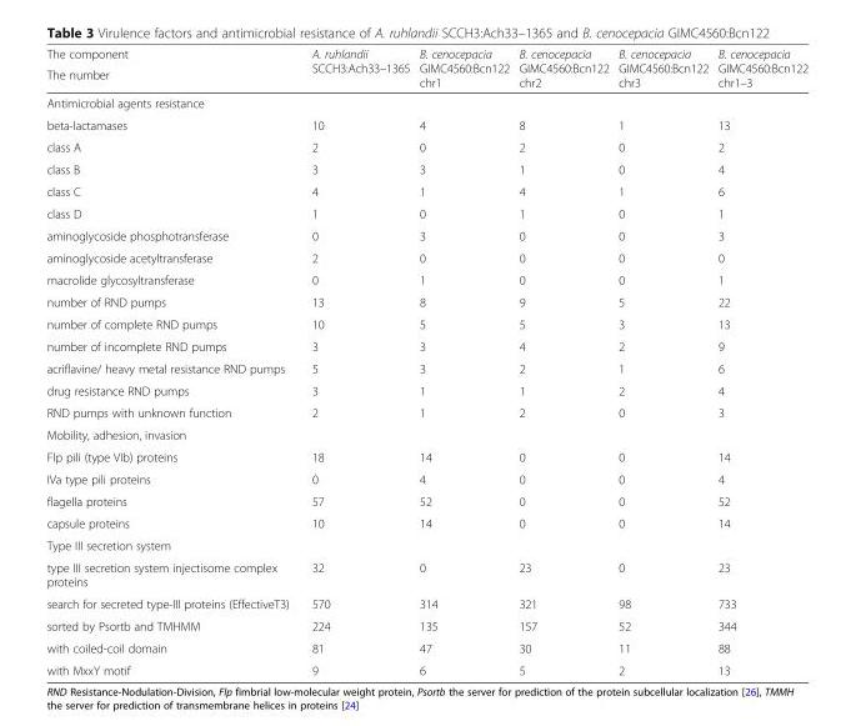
<table><thead><tr><td rowspan="2">The component The number</td><td rowspan="2">A. ruhlandii SCCH3:Ach33–1365</td><td rowspan="2">B. cenocepacia GIMC4560:Bcn122 chr1</td><td rowspan="2">B. cenocepacia GIMC4560:Bcn122 chr2</td><td rowspan="2">B. cenocepacia GIMC4560:Bcn122 chr3</td><td rowspan="2">B. cenocepacia GIMC4560:Bcn122 chr1–3</td></tr><tr></tr></thead><tbody><tr><td colspan="6">Antimicrobial agents resistance</td></tr><tr><td>beta-lactamases</td><td>10</td><td>4</td><td>8</td><td>1</td><td>13</td></tr><tr><td>class A</td><td>2</td><td>0</td><td>2</td><td>0</td><td>2</td></tr><tr><td>class B</td><td>3</td><td>3</td><td>1</td><td>0</td><td>4</td></tr><tr><td>class C</td><td>4</td><td>1</td><td>4</td><td>1</td><td>6</td></tr><tr><td>class D</td><td>1</td><td>0</td><td>1</td><td>0</td><td>1</td></tr><tr><td>aminoglycoside phosphotransferase</td><td>0</td><td>3</td><td>0</td><td>0</td><td>3</td></tr><tr><td>aminoglycoside acetyltransferase</td><td>2</td><td>0</td><td>0</td><td>0</td><td>0</td></tr><tr><td>macrolide glycosyltransferase</td><td>0</td><td>1</td><td>0</td><td>0</td><td>1</td></tr><tr><td>number of RND pumps</td><td>13</td><td>8</td><td>9</td><td>5</td><td>22</td></tr><tr><td>number of complete RND pumps</td><td>10</td><td>5</td><td>5</td><td>3</td><td>13</td></tr><tr><td>number of incomplete RND pumps</td><td>3</td><td>3</td><td>4</td><td>2</td><td>9</td></tr><tr><td>acriflavine/ heavy metal resistance RND pumps</td><td>5</td><td>3</td><td>2</td><td>1</td><td>6</td></tr><tr><td>drug resistance RND pumps</td><td>3</td><td>1</td><td>1</td><td>2</td><td>4</td></tr><tr><td>RND pumps with unknown function</td><td>2</td><td>1</td><td>2</td><td>0</td><td>3</td></tr><tr><td colspan="6">Mobility, adhesion, invasion</td></tr><tr><td>Flp pili (type VIb) proteins</td><td>18</td><td>14</td><td>0</td><td>0</td><td>14</td></tr><tr><td>IVа type pili proteins</td><td>0</td><td>4</td><td>0</td><td>0</td><td>4</td></tr><tr><td>flagella proteins</td><td>57</td><td>52</td><td>0</td><td>0</td><td>52</td></tr><tr><td>capsule proteins</td><td>10</td><td>14</td><td>0</td><td>0</td><td>14</td></tr><tr><td colspan="6">Type III secretion system</td></tr><tr><td>type III secretion system injectisome complex proteins</td><td>32</td><td>0</td><td>23</td><td>0</td><td>23</td></tr><tr><td>search for secreted type-III proteins (EffectiveT3)</td><td>570</td><td>314</td><td>321</td><td>98</td><td>733</td></tr><tr><td>sorted by Psortb and TMHMM</td><td>224</td><td>135</td><td>157</td><td>52</td><td>344</td></tr><tr><td>with coiled-coil domain</td><td>81</td><td>47</td><td>30</td><td>11</td><td>88</td></tr><tr><td>with MxxY motif</td><td>9</td><td>6</td><td>5</td><td>2</td><td>13</td></tr></tbody></table>